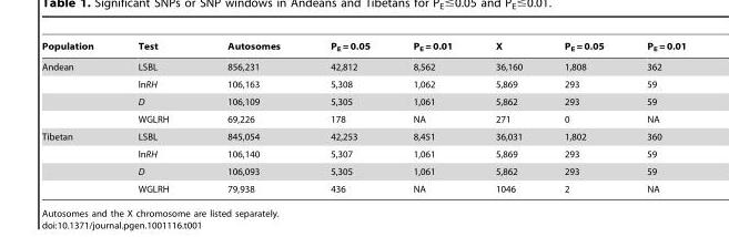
<table><thead><tr><td>Population</td><td>Test</td><td>Autosomes</td><td>P<sub>E</sub> = 0.05</td><td>P<sub>E</sub> = 0.01</td><td>X</td><td>P<sub>E</sub> = 0.05</td><td>P<sub>E</sub> = 0.01</td></tr></thead><tbody><tr><td rowspan="4">Andean</td><td>LSBL</td><td>856,231</td><td>42,812</td><td>8,562</td><td>36,160</td><td>1,808</td><td>362</td></tr><tr><td>lnRH</td><td>106,163</td><td>5,308</td><td>1,062</td><td>5,869</td><td>293</td><td>59</td></tr><tr><td>D</td><td>106,109</td><td>5,305</td><td>1,061</td><td>5,862</td><td>293</td><td>59</td></tr><tr><td>WGLRH</td><td>69,226</td><td>178</td><td>NA</td><td>271</td><td>0</td><td>NA</td></tr><tr><td rowspan="4">Tibetan</td><td>LSBL</td><td>845,054</td><td>42,253</td><td>8,451</td><td>36,031</td><td>1,802</td><td>360</td></tr><tr><td>lnRH</td><td>106,140</td><td>5,307</td><td>1,061</td><td>5,869</td><td>293</td><td>59</td></tr><tr><td>D</td><td>106,093</td><td>5,305</td><td>1,061</td><td>5,862</td><td>293</td><td>59</td></tr><tr><td>WGLRH</td><td>79,938</td><td>436</td><td>NA</td><td>1046</td><td>2</td><td>NA</td></tr></tbody></table>